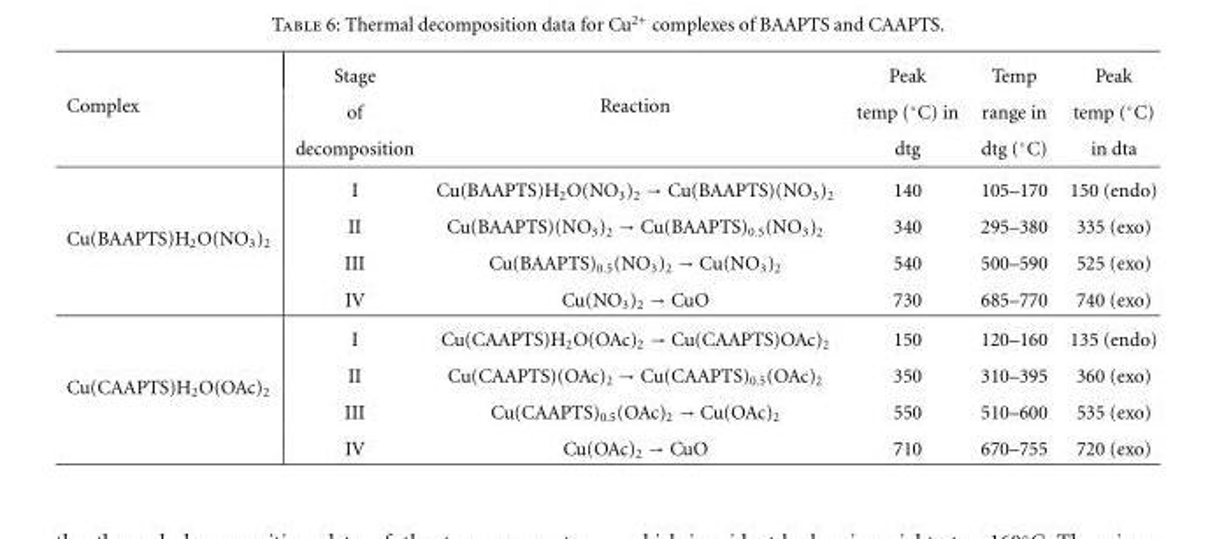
<table><tbody><tr><td rowspan="3">Complex</td><td>Stage</td><td rowspan="3">Reaction</td><td>Peak</td><td>Temp</td><td>Peak</td></tr><tr><td>of</td><td>temp (◦C) in</td><td>range in</td><td>temp (◦C)</td></tr><tr><td>decomposition</td><td>dtg</td><td>dtg (◦C)</td><td>in dta</td></tr><tr><td rowspan="4">Cu(BAAPTS)H<sub>2</sub>O(NO<sub>3</sub>)<sub>2</sub></td><td>I</td><td>Cu(BAAPTS)H<sub>2</sub>O(NO<sub>3</sub>)<sub>2</sub> → Cu(BAAPTS)(NO<sub>3</sub>)<sub>2</sub></td><td>140</td><td>105–170</td><td>150 (endo)</td></tr><tr><td>II</td><td>Cu(BAAPTS)(NO<sub>3</sub>)<sub>2</sub> → Cu(BAAPTS)<sub>0.5</sub>(NO<sub>3</sub>)<sub>2</sub></td><td>340</td><td>295–380</td><td>335 (exo)</td></tr><tr><td>III</td><td>Cu(BAAPTS)<sub>0.5</sub>(NO<sub>3</sub>)<sub>2</sub> → Cu(NO<sub>3</sub>)<sub>2</sub></td><td>540</td><td>500–590</td><td>525 (exo)</td></tr><tr><td>IV</td><td>Cu(NO<sub>3</sub>)<sub>2</sub> → CuO</td><td>730</td><td>685–770</td><td>740 (exo)</td></tr><tr><td rowspan="4">Cu(CAAPTS)H<sub>2</sub>O(OAc)<sub>2</sub></td><td>I</td><td>Cu(CAAPTS)H<sub>2</sub>O(OAc)<sub>2</sub> → Cu(CAAPTS)OAc)<sub>2</sub></td><td>150</td><td>120–160</td><td>135 (endo)</td></tr><tr><td>II</td><td>Cu(CAAPTS)(OAc)<sub>2</sub> → Cu(CAAPTS)<sub>0.5</sub>(OAc)<sub>2</sub></td><td>350</td><td>310–395</td><td>360 (exo)</td></tr><tr><td>III</td><td>Cu(CAAPTS)<sub>0.5</sub>(OAc)<sub>2</sub> → Cu(OAc)<sub>2</sub></td><td>550</td><td>510–600</td><td>535 (exo)</td></tr><tr><td>IV</td><td>Cu(OAc)<sub>2</sub> → CuO</td><td>710</td><td>670–755</td><td>720 (exo)</td></tr></tbody></table>